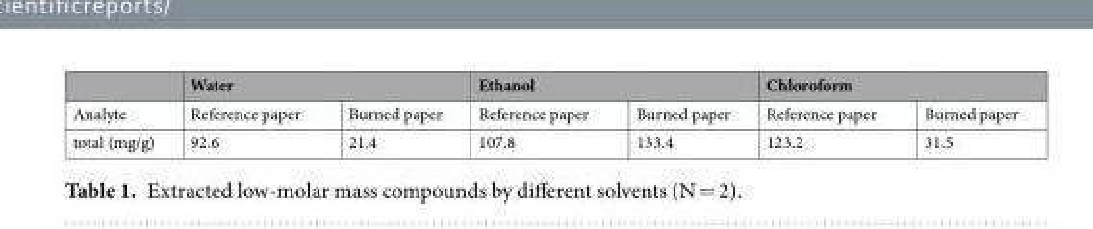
<table><thead><tr><td rowspan="2">Analyte</td><td colspan="2">Water</td><td colspan="2">Ethanol</td><td colspan="2">Chloroform</td></tr><tr><td>Reference paper</td><td>Burned paper</td><td>Reference paper</td><td>Burned paper</td><td>Reference paper</td><td>Burned paper</td></tr></thead><tbody><tr><td>total (mg/g)</td><td>92.6</td><td>21.4</td><td>107.8</td><td>133.4</td><td>123.2</td><td>31.5</td></tr></tbody></table>